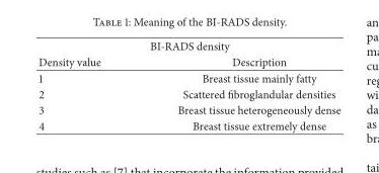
<table><thead><tr><td colspan="2">BI-RADS density</td></tr><tr><td>Density value</td><td>Description</td></tr></thead><tbody><tr><td>1</td><td>Breast tissue mainly fatty</td></tr><tr><td>2</td><td>Scattered fibroglandular densities</td></tr><tr><td>3</td><td>Breast tissue heterogeneously dense</td></tr><tr><td>4</td><td>Breast tissue extremely dense</td></tr></tbody></table>